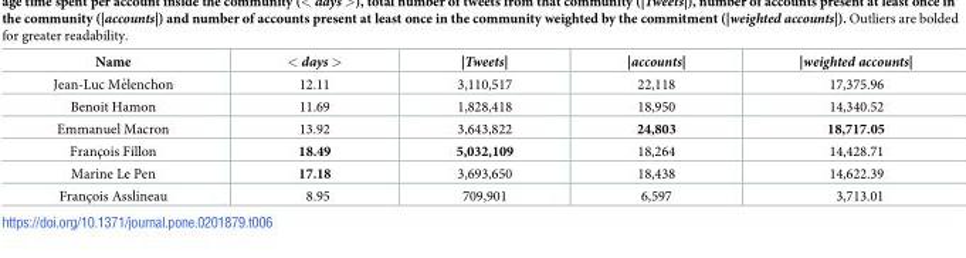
<table><thead><tr><td>Name</td><td>&lt; days &gt;</td><td>|Tweets|</td><td>|accounts|</td><td>|weighted accounts|</td></tr></thead><tbody><tr><td>Jean-Luc Me´lenchon</td><td>12.11</td><td>3,110,517</td><td>22,118</td><td>17,375.96</td></tr><tr><td>Benoit Hamon</td><td>11.69</td><td>1,828,418</td><td>18,950</td><td>14,340.52</td></tr><tr><td>Emmanuel Macron</td><td>13.92</td><td>3,643,822</td><td>24,803</td><td>18,717.05</td></tr><tr><td>Franc¸ois Fillon</td><td>18.49</td><td>5,032,109</td><td>18,264</td><td>14,428.71</td></tr><tr><td>Marine Le Pen</td><td>17.18</td><td>3,693,650</td><td>18,438</td><td>14,622.39</td></tr><tr><td>Franc¸ois Asslineau</td><td>8.95</td><td>709,901</td><td>6,597</td><td>3,713.01</td></tr></tbody></table>